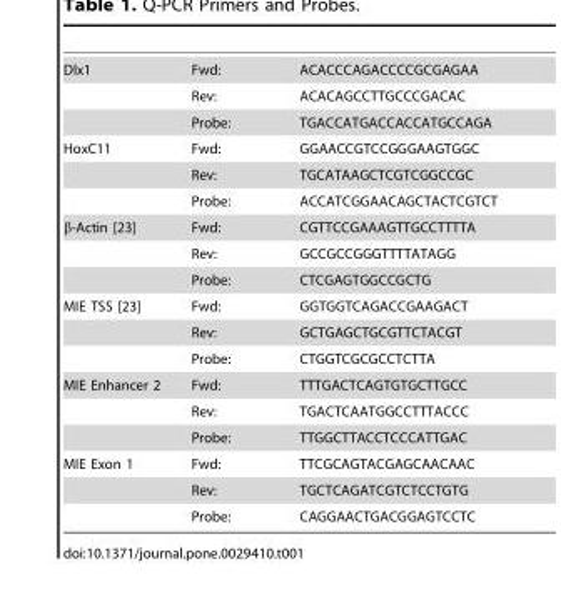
<table><tbody><tr><td rowspan="3">Dlx1</td><td>Fwd:</td><td>ACACCCAGACCCCGCGAGAA</td></tr><tr><td>Rev:</td><td>ACACAGCCTTGCCCGACAC</td></tr><tr><td>Probe:</td><td>TGACCATGACCACCATGCCAGA</td></tr><tr><td rowspan="3">HoxC11</td><td>Fwd:</td><td>GGAACCGTCCGGGAAGTGGC</td></tr><tr><td>Rev:</td><td>TGCATAAGCTCGTCGGCCGC</td></tr><tr><td>Probe:</td><td>ACCATCGGAACAGCTACTCGTCT</td></tr><tr><td rowspan="3">β-Actin [23]</td><td>Fwd:</td><td>CGTTCCGAAAGTTGCCTTTTA</td></tr><tr><td>Rev:</td><td>GCCGCCGGGTTTTATAGG</td></tr><tr><td>Probe:</td><td>CTCGAGTGGCCGCTG</td></tr><tr><td rowspan="3">MIE TSS [23]</td><td>Fwd:</td><td>GGTGGTCAGACCGAAGACT</td></tr><tr><td>Rev:</td><td>GCTGAGCTGCGTTCTACGT</td></tr><tr><td>Probe:</td><td>CTGGTCGCGCCTCTTA</td></tr><tr><td rowspan="3">MIE Enhancer 2</td><td>Fwd:</td><td>TTTGACTCAGTGTGCTTGCC</td></tr><tr><td>Rev:</td><td>TGACTCAATGGCCTTTACCC</td></tr><tr><td>Probe:</td><td>TTGGCTTACCTCCCATTGAC</td></tr><tr><td rowspan="3">MIE Exon 1</td><td>Fwd:</td><td>TTCGCAGTACGAGCAACAAC</td></tr><tr><td>Rev:</td><td>TGCTCAGATCGTCTCCTGTG</td></tr><tr><td>Probe:</td><td>CAGGAACTGACGGAGTCCTC</td></tr></tbody></table>